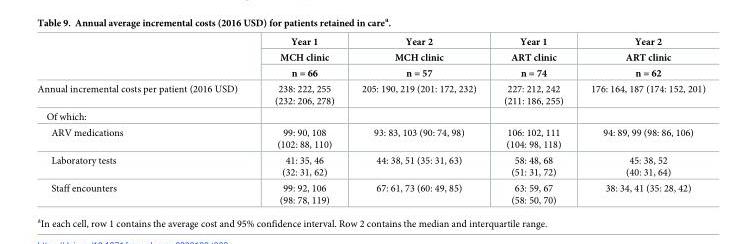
<table><thead><tr><td rowspan="3"></td><td rowspan="3">Year 1 MCH clinic n = 66</td><td rowspan="3">Year 2 MCH clinic n = 57</td><td rowspan="3">Year 1 ART clinic n = 74</td><td rowspan="3">Year 2 ART clinic n = 62</td></tr><tr></tr><tr></tr></thead><tbody><tr><td>Annual incremental costs per patient (2016 USD)</td><td>238: 222, 255 (232: 206, 278)</td><td>205: 190, 219 (201: 172, 232)</td><td>227: 212, 242 (211: 186, 255)</td><td>176: 164, 187 (174: 152, 201)</td></tr><tr><td colspan="5">Of which:</td></tr><tr><td>ARV medications</td><td>99: 90, 108 (102: 88, 110)</td><td>93: 83, 103 (90: 74, 98)</td><td>106: 102, 111 (104: 98, 118)</td><td>94: 89, 99 (98: 86, 106)</td></tr><tr><td>Laboratory tests</td><td>41: 35, 46 (32: 31, 62)</td><td>44: 38, 51 (35: 31, 63)</td><td>58: 48, 68 (51: 31, 72)</td><td>45: 38, 52 (40: 31, 64)</td></tr><tr><td>Staff encounters</td><td>99: 92, 106 (98: 78, 119)</td><td>67: 61, 73 (60: 49, 85)</td><td>63: 59, 67 (58: 50, 70)</td><td>38: 34, 41 (35: 28, 42)</td></tr></tbody></table>